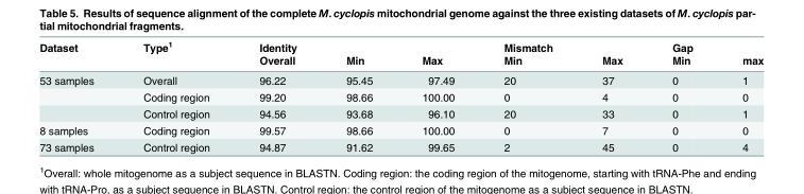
<table><thead><tr><td rowspan="2">Dataset</td><td rowspan="2">Type<sup>1</sup></td><td rowspan="2">Identity Overall</td><td rowspan="2">Min</td><td rowspan="2">Max</td><td rowspan="2">Mismatch Min</td><td rowspan="2">Max</td><td rowspan="2">Gap Min</td><td rowspan="2">max</td></tr><tr></tr></thead><tbody><tr><td rowspan="3">53 samples</td><td>Overall</td><td>96.22</td><td>95.45</td><td>97.49</td><td>20</td><td>37</td><td>0</td><td>1</td></tr><tr><td>Coding region</td><td>99.20</td><td>98.66</td><td>100.00</td><td>0</td><td>4</td><td>0</td><td>0</td></tr><tr><td>Control region</td><td>94.56</td><td>93.68</td><td>96.10</td><td>20</td><td>33</td><td>0</td><td>1</td></tr><tr><td>8 samples</td><td>Coding region</td><td>99.57</td><td>98.66</td><td>100.00</td><td>0</td><td>7</td><td>0</td><td>0</td></tr><tr><td>73 samples</td><td>Control region</td><td>94.87</td><td>91.62</td><td>99.65</td><td>2</td><td>45</td><td>0</td><td>4</td></tr></tbody></table>